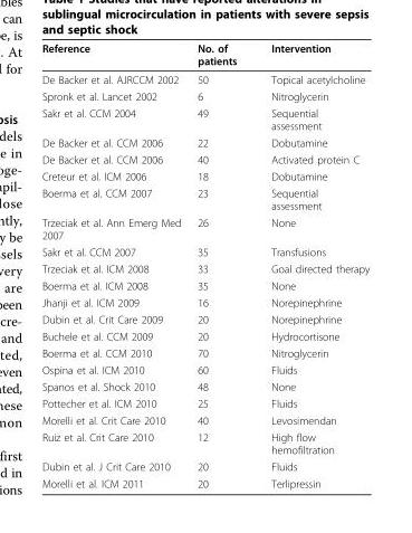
<table><thead><tr><td>Reference</td><td>No. of patients</td><td>Intervention</td></tr></thead><tbody><tr><td>De Backer et al. AJRCCM 2002</td><td>50</td><td>Topical acetylcholine</td></tr><tr><td>Spronk et al. Lancet 2002</td><td>6</td><td>Nitroglycerin</td></tr><tr><td>Sakr et al. CCM 2004</td><td>49</td><td>Sequential assessment</td></tr><tr><td>De Backer et al. CCM 2006</td><td>22</td><td>Dobutamine</td></tr><tr><td>De Backer et al. CCM 2006</td><td>40</td><td>Activated protein C</td></tr><tr><td>Creteur et al. ICM 2006</td><td>18</td><td>Dobutamine</td></tr><tr><td>Boerma et al. CCM 2007</td><td>23</td><td>Sequential assessment</td></tr><tr><td>Trzeciak et al. Ann Emerg Med 2007</td><td>26</td><td>None</td></tr><tr><td>Sakr et al. CCM 2007</td><td>35</td><td>Transfusions</td></tr><tr><td>Trzeciak et al. ICM 2008</td><td>33</td><td>Goal directed therapy</td></tr><tr><td>Boerma et al. ICM 2008</td><td>35</td><td>None</td></tr><tr><td>Jhanji et al. ICM 2009</td><td>16</td><td>Norepinephrine</td></tr><tr><td>Dubin et al. Crit Care 2009</td><td>20</td><td>Norepinephrine</td></tr><tr><td>Buchele et al. CCM 2009</td><td>20</td><td>Hydrocortisone</td></tr><tr><td>Boerma et al. CCM 2010</td><td>70</td><td>Nitroglycerin</td></tr><tr><td>Ospina et al. ICM 2010</td><td>60</td><td>Fluids</td></tr><tr><td>Spanos et al. Shock 2010</td><td>48</td><td>None</td></tr><tr><td>Pottecher et al. ICM 2010</td><td>25</td><td>Fluids</td></tr><tr><td>Morelli et al. Crit Care 2010</td><td>40</td><td>Levosimendan</td></tr><tr><td>Ruiz et al. Crit Care 2010</td><td>12</td><td>High flow hemofiltration</td></tr><tr><td>Dubin et al. J Crit Care 2010</td><td>20</td><td>Fluids</td></tr><tr><td>Morelli et al. ICM 2011</td><td>20</td><td>Terlipressin</td></tr></tbody></table>